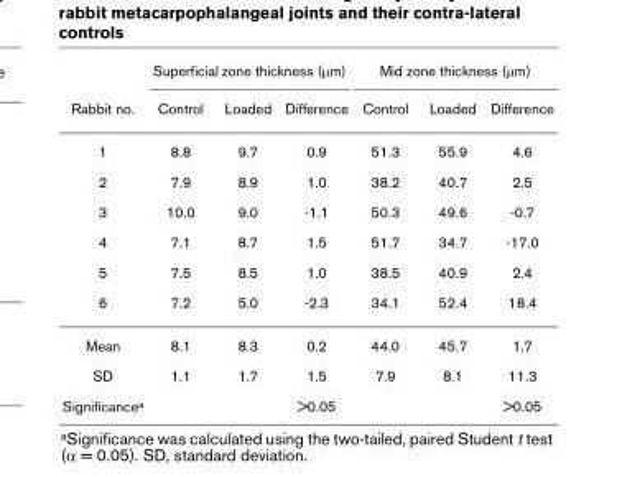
<table><thead><tr><td rowspan="2">Rabbit no.</td><td colspan="3">Superficial zone thickness (µm)</td><td colspan="3">Mid zone thickness (µm)</td></tr><tr><td>Control</td><td>Loaded</td><td>Difference</td><td>Control</td><td>Loaded</td><td>Difference</td></tr></thead><tbody><tr><td>1</td><td>8.8</td><td>9.7</td><td>0.9</td><td>51.3</td><td>55.9</td><td>4.6</td></tr><tr><td>2</td><td>7.9</td><td>8.9</td><td>1.0</td><td>38.2</td><td>40.7</td><td>2.5</td></tr><tr><td>3</td><td>10.0</td><td>9.0</td><td>-1.1</td><td>50.3</td><td>49.6</td><td>-0.7</td></tr><tr><td>4</td><td>7.1</td><td>8.7</td><td>1.5</td><td>51.7</td><td>34.7</td><td>-17.0</td></tr><tr><td>5</td><td>7.5</td><td>8.5</td><td>1.0</td><td>38.5</td><td>40.9</td><td>2.4</td></tr><tr><td>6</td><td>7.2</td><td>5.0</td><td>-2.3</td><td>34.1</td><td>52.4</td><td>18.4</td></tr><tr><td>Mean</td><td>8.1</td><td>8.3</td><td>0.2</td><td>44.0</td><td>45.7</td><td>1.7</td></tr><tr><td>SD</td><td>1.1</td><td>1.7</td><td>1.5</td><td>7.9</td><td>8.1</td><td>11.3</td></tr><tr><td>Significancea</td><td></td><td></td><td>&gt;0.05</td><td></td><td></td><td>&gt;0.05</td></tr></tbody></table>